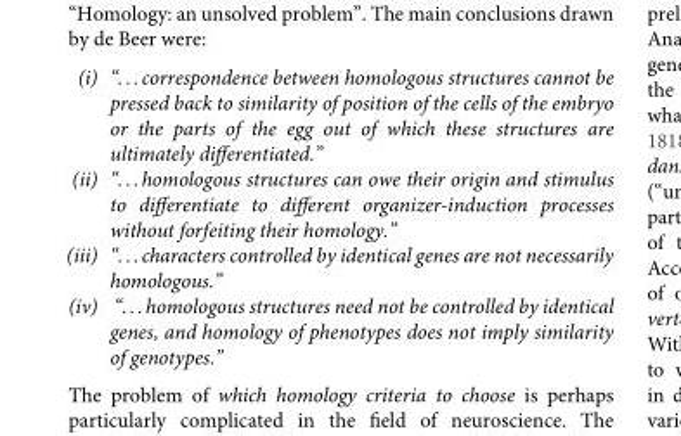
<table><tbody><tr><td>(i)</td><td>“...correspondence between homologous structures cannot be pressed back to similarity of position of the cells of the embryo or the parts of the egg out of which these structures are ultimately differentiated.”</td></tr><tr><td>(ii)</td><td>“...homologous structures can owe their origin and stimulus to differentiate to different organizer-induction processes without forfeiting their homology.”</td></tr><tr><td>(iii)</td><td>“...characters controlled by identical genes are not necessarily homologous.”</td></tr><tr><td>(iv)</td><td>“...homologous structures need not be controlled by identical genes, and homology of phenotypes does not imply similarity of genotypes.”</td></tr></tbody></table>